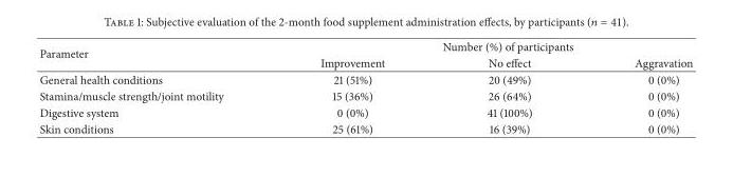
<table><thead><tr><td rowspan="2">Parameter</td><td colspan="3">Number (%) of participants</td></tr><tr><td>Improvement</td><td>No effect</td><td>Aggravation</td></tr></thead><tbody><tr><td>General health conditions</td><td>21 (51%)</td><td>20 (49%)</td><td>0 (0%)</td></tr><tr><td>Stamina/muscle strength/joint motility</td><td>15 (36%)</td><td>26 (64%)</td><td>0 (0%)</td></tr><tr><td>Digestive system</td><td>0 (0%)</td><td>41 (100%)</td><td>0 (0%)</td></tr><tr><td>Skin conditions</td><td>25 (61%)</td><td>16 (39%)</td><td>0 (0%)</td></tr></tbody></table>